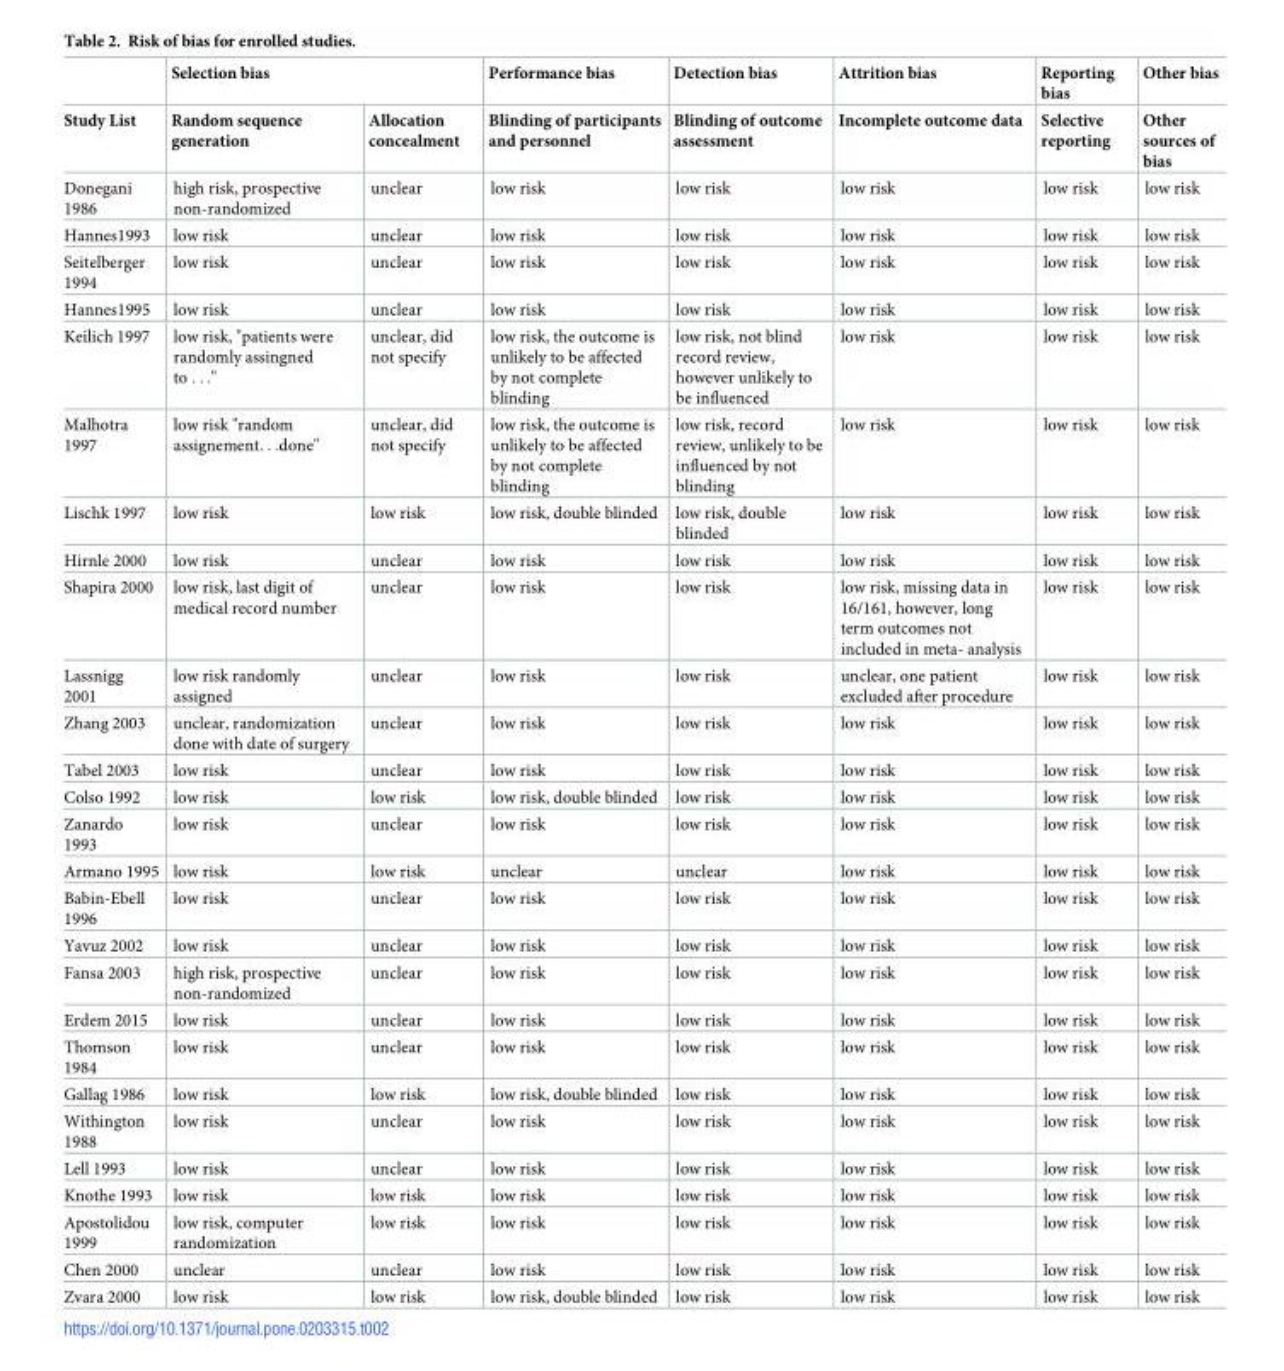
<table><thead><tr><td rowspan="2">Study List</td><td colspan="2">Selection bias</td><td rowspan="2">Performance bias Blinding of participants and personnel</td><td rowspan="2">Detection bias Blinding of outcome assessment</td><td rowspan="2">Attrition bias Incomplete outcome data</td><td rowspan="2">Reporting bias Selective reporting</td><td rowspan="2">Other bias Other sources of bias</td></tr><tr><td>Random sequence generation</td><td>Allocation concealment</td></tr></thead><tbody><tr><td>Donegani 1986</td><td>high risk, prospective non-randomized</td><td>unclear</td><td>low risk</td><td>low risk</td><td>low risk</td><td>low risk</td><td>low risk</td></tr><tr><td>Hannes1993</td><td>low risk</td><td>unclear</td><td>low risk</td><td>low risk</td><td>low risk</td><td>low risk</td><td>low risk</td></tr><tr><td>Seitelberger 1994</td><td>low risk</td><td>unclear</td><td>low risk</td><td>low risk</td><td>low risk</td><td>low risk</td><td>low risk</td></tr><tr><td>Hannes1995</td><td>low risk</td><td>unclear</td><td>low risk</td><td>low risk</td><td>low risk</td><td>low risk</td><td>low risk</td></tr><tr><td>Keilich 1997</td><td>low risk, &quot;patients were randomly assingned to . . .&quot;</td><td>unclear, did not specify</td><td>low risk, the outcome is unlikely to be affected by not complete blinding</td><td>low risk, not blind record review, however unlikely to be influenced</td><td>low risk</td><td>low risk</td><td>low risk</td></tr><tr><td>Malhotra 1997</td><td>low risk &quot;random assignement. . .done&quot;</td><td>unclear, did not specify</td><td>low risk, the outcome is unlikely to be affected by not complete blinding</td><td>low risk, record review, unlikely to be influenced by not blinding</td><td>low risk</td><td>low risk</td><td>low risk</td></tr><tr><td>Lischk 1997</td><td>low risk</td><td>low risk</td><td>low risk, double blinded</td><td>low risk, double blinded</td><td>low risk</td><td>low risk</td><td>low risk</td></tr><tr><td>Hirnle 2000</td><td>low risk</td><td>unclear</td><td>low risk</td><td>low risk</td><td>low risk</td><td>low risk</td><td>low risk</td></tr><tr><td>Shapira 2000</td><td>low risk, last digit of medical record number</td><td>unclear</td><td>low risk</td><td>low risk</td><td>low risk, missing data in 16/161, however, long term outcomes not included in meta- analysis</td><td>low risk</td><td>low risk</td></tr><tr><td>Lassnigg 2001</td><td>low risk randomly assigned</td><td>unclear</td><td>low risk</td><td>low risk</td><td>unclear, one patient excluded after procedure</td><td>low risk</td><td>low risk</td></tr><tr><td>Zhang 2003</td><td>unclear, randomization done with date of surgery</td><td>unclear</td><td>low risk</td><td>low risk</td><td>low risk</td><td>low risk</td><td>low risk</td></tr><tr><td>Tabel 2003</td><td>low risk</td><td>unclear</td><td>low risk</td><td>low risk</td><td>low risk</td><td>low risk</td><td>low risk</td></tr><tr><td>Colso 1992</td><td>low risk</td><td>low risk</td><td>low risk, double blinded</td><td>low risk</td><td>low risk</td><td>low risk</td><td>low risk</td></tr><tr><td>Zanardo 1993</td><td>low risk</td><td>unclear</td><td>low risk</td><td>low risk</td><td>low risk</td><td>low risk</td><td>low risk</td></tr><tr><td>Armano 1995</td><td>low risk</td><td>low risk</td><td>unclear</td><td>unclear</td><td>low risk</td><td>low risk</td><td>low risk</td></tr><tr><td>Babin-Ebell 1996</td><td>low risk</td><td>unclear</td><td>low risk</td><td>low risk</td><td>low risk</td><td>low risk</td><td>low risk</td></tr><tr><td>Yavuz 2002</td><td>low risk</td><td>unclear</td><td>low risk</td><td>low risk</td><td>low risk</td><td>low risk</td><td>low risk</td></tr><tr><td>Fansa 2003</td><td>high risk, prospective non-randomized</td><td>unclear</td><td>low risk</td><td>low risk</td><td>low risk</td><td>low risk</td><td>low risk</td></tr><tr><td>Erdem 2015</td><td>low risk</td><td>unclear</td><td>low risk</td><td>low risk</td><td>low risk</td><td>low risk</td><td>low risk</td></tr><tr><td>Thomson 1984</td><td>low risk</td><td>unclear</td><td>low risk</td><td>low risk</td><td>low risk</td><td>low risk</td><td>low risk</td></tr><tr><td>Gallag 1986</td><td>low risk</td><td>low risk</td><td>low risk, double blinded</td><td>low risk</td><td>low risk</td><td>low risk</td><td>low risk</td></tr><tr><td>Withington 1988</td><td>low risk</td><td>unclear</td><td>low risk</td><td>low risk</td><td>low risk</td><td>low risk</td><td>low risk</td></tr><tr><td>Lell 1993</td><td>low risk</td><td>unclear</td><td>low risk</td><td>low risk</td><td>low risk</td><td>low risk</td><td>low risk</td></tr><tr><td>Knothe 1993</td><td>low risk</td><td>low risk</td><td>low risk</td><td>low risk</td><td>low risk</td><td>low risk</td><td>low risk</td></tr><tr><td>Apostolidou 1999</td><td>low risk, computer randomization</td><td>low risk</td><td>low risk</td><td>low risk</td><td>low risk</td><td>low risk</td><td>low risk</td></tr><tr><td>Chen 2000</td><td>unclear</td><td>unclear</td><td>low risk</td><td>low risk</td><td>low risk</td><td>low risk</td><td>low risk</td></tr><tr><td>Zvara 2000</td><td>low risk</td><td>low risk</td><td>low risk, double blinded</td><td>low risk</td><td>low risk</td><td>low risk</td><td>low risk</td></tr></tbody></table>